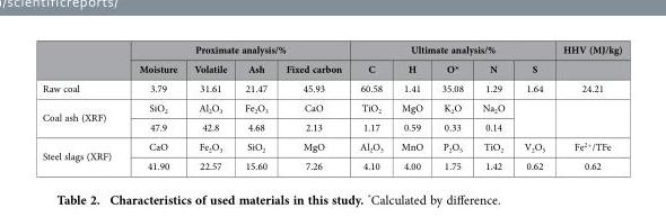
<table><thead><tr><td rowspan="2"></td><td colspan="4">Proximate analysis/%</td><td colspan="5">Ultimate analysis/%</td><td rowspan="2">HHV (MJ/kg)</td></tr><tr><td>Moisture</td><td>Volatile</td><td>Ash</td><td>Fixed carbon</td><td>C</td><td>H</td><td>O*</td><td>N</td><td>S</td></tr></thead><tbody><tr><td>Raw coal</td><td>3.79</td><td>31.61</td><td>21.47</td><td>45.93</td><td>60.58</td><td>1.41</td><td>35.08</td><td>1.29</td><td>1.64</td><td>24.21</td></tr><tr><td rowspan="2">Coal ash (XRF)</td><td>SiO<sub>2</sub></td><td>Al<sub>2</sub>O<sub>3</sub></td><td>Fe<sub>2</sub>O<sub>3</sub></td><td>CaO</td><td>TiO<sub>2</sub></td><td>MgO</td><td>K<sub>2</sub>O</td><td>Na<sub>2</sub>O</td><td rowspan="2"></td><td rowspan="2"></td></tr><tr><td>47.9</td><td>42.8</td><td>4.68</td><td>2.13</td><td>1.17</td><td>0.59</td><td>0.33</td><td>0.14</td></tr><tr><td rowspan="2">Steel slags (XRF)</td><td>CaO</td><td>Fe<sub>2</sub>O<sub>3</sub></td><td>SiO<sub>2</sub></td><td>MgO</td><td>Al<sub>2</sub>O<sub>3</sub></td><td>MnO</td><td>P<sub>2</sub>O<sub>5</sub></td><td>TiO<sub>2</sub></td><td>V<sub>2</sub>O<sub>5</sub></td><td>Fe<sup>2+</sup>/TFe</td></tr><tr><td>41.90</td><td>22.57</td><td>15.60</td><td>7.26</td><td>4.10</td><td>4.00</td><td>1.75</td><td>1.42</td><td>0.62</td><td>0.62</td></tr></tbody></table>